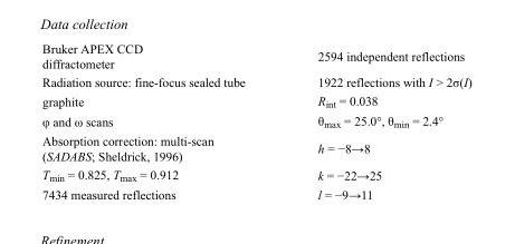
<table><tbody><tr><td>Bruker APEX CCD diffractometer</td><td>2594 independent reflections</td></tr><tr><td>Radiation source: fine-focus sealed tube</td><td>1922 reflections with I &gt; 2σ(I)</td></tr><tr><td>graphite</td><td>R<sub>int</sub> = 0.038</td></tr><tr><td>φ and ω scans</td><td>θ<sub>max</sub> = 25.0°, θ<sub>min</sub> = 2.4°</td></tr><tr><td>Absorption correction: multi-scan (SADABS; Sheldrick, 1996)</td><td>h = −8→8</td></tr><tr><td>T<sub>min</sub> = 0.825, T<sub>max</sub> = 0.912</td><td>k = −22→25</td></tr><tr><td>7434 measured reflections</td><td>l = −9→11</td></tr></tbody></table>